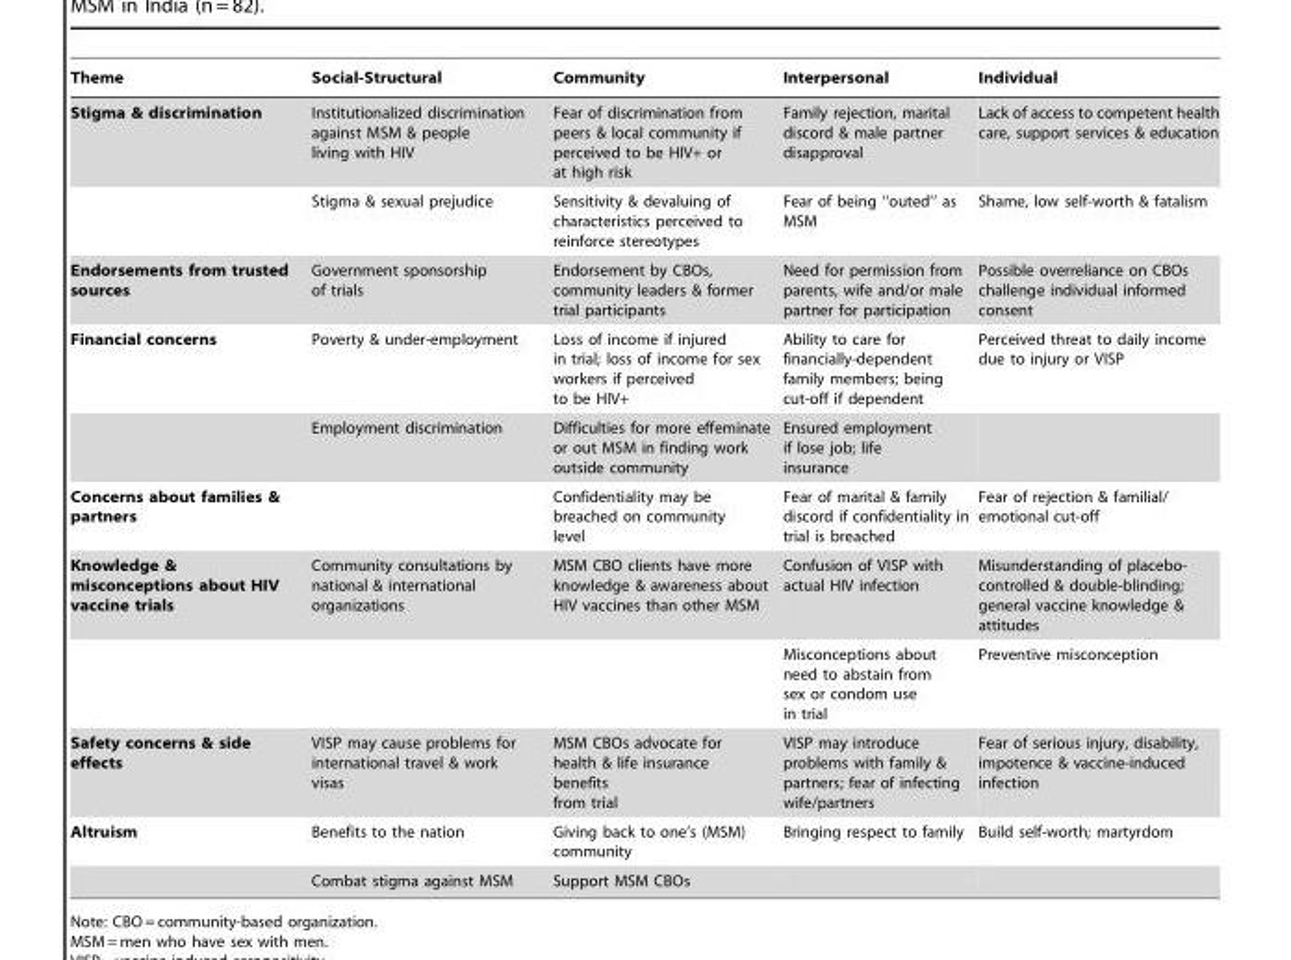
<table><thead><tr><td>Theme</td><td>Social-Structural</td><td>Community</td><td>Interpersonal</td><td>Individual</td></tr></thead><tbody><tr><td rowspan="2">Stigma &amp; discrimination</td><td>Institutionalized discrimination against MSM &amp; people living with HIV</td><td>Fear of discrimination from peers &amp; local community if perceived to be HIV+ or at high risk</td><td>Family rejection, marital discord &amp; male partner disapproval</td><td>Lack of access to competent health care, support services &amp; education</td></tr><tr><td>Stigma &amp; sexual prejudice</td><td>Sensitivity &amp; devaluing of characteristics perceived to reinforce stereotypes</td><td>Fear of being ‘‘outed’’ as MSM</td><td>Shame, low self-worth &amp; fatalism</td></tr><tr><td>Endorsements from trusted sources</td><td>Government sponsorship of trials</td><td>Endorsement by CBOs, community leaders &amp; former trial participants</td><td>Need for permission from parents, wife and/or male partner for participation</td><td>Possible overreliance on CBOs challenge individual informed consent</td></tr><tr><td rowspan="2">Financial concerns</td><td>Poverty &amp; under-employment</td><td>Loss of income if injured in trial; loss of income for sex workers if perceived to be HIV+</td><td>Ability to care for financially-dependent family members; being cut-off if dependent</td><td>Perceived threat to daily income due to injury or VISP</td></tr><tr><td>Employment discrimination</td><td>Difficulties for more effeminate or out MSM in finding work outside community</td><td>Ensured employment if lose job; life insurance</td><td></td></tr><tr><td>Concerns about families &amp; partners</td><td></td><td>Confidentiality may be breached on community level</td><td>Fear of marital &amp; family discord if confidentiality in trial is breached</td><td>Fear of rejection &amp; familial/ emotional cut-off</td></tr><tr><td rowspan="2">Knowledge &amp; misconceptions about HIV vaccine trials</td><td>Community consultations by national &amp; international organizations</td><td>MSM CBO clients have more knowledge &amp; awareness about HIV vaccines than other MSM</td><td>Confusion of VISP with actual HIV infection</td><td>Misunderstanding of placebo- controlled &amp; double-blinding; general vaccine knowledge &amp; attitudes</td></tr><tr><td></td><td></td><td>Misconceptions about need to abstain from sex or condom use in trial</td><td>Preventive misconception</td></tr><tr><td>Safety concerns &amp; side effects</td><td>VISP may cause problems for international travel &amp; work visas</td><td>MSM CBOs advocate for health &amp; life insurance benefits from trial</td><td>VISP may introduce problems with family &amp; partners; fear of infecting wife/partners</td><td>Fear of serious injury, disability, impotence &amp; vaccine-induced infection</td></tr><tr><td rowspan="2">Altruism</td><td>Benefits to the nation</td><td>Giving back to one’s (MSM) community</td><td>Bringing respect to family</td><td>Build self-worth; martyrdom</td></tr><tr><td>Combat stigma against MSM</td><td>Support MSM CBOs</td><td></td><td></td></tr></tbody></table>